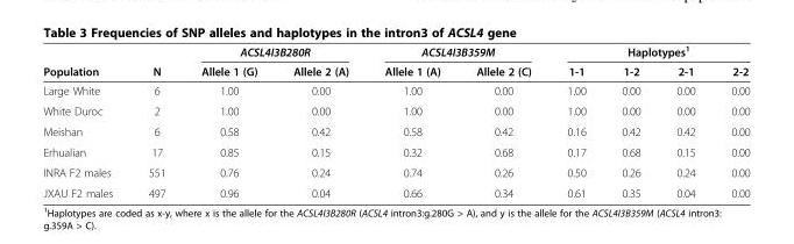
<table><thead><tr><td rowspan="2">Population</td><td rowspan="2">N</td><td colspan="2">ACSL4I3B280R</td><td colspan="2">ACSL4I3B359M</td><td colspan="4">Haplotypes<sup>1</sup></td></tr><tr><td>Allele 1 (G)</td><td>Allele 2 (A)</td><td>Allele 1 (A)</td><td>Allele 2 (C)</td><td>1-1</td><td>1-2</td><td>2-1</td><td>2-2</td></tr></thead><tbody><tr><td>Large White</td><td>6</td><td>1.00</td><td>0.00</td><td>1.00</td><td>0.00</td><td>1.00</td><td>0.00</td><td>0.00</td><td>0.00</td></tr><tr><td>White Duroc</td><td>2</td><td>1.00</td><td>0.00</td><td>1.00</td><td>0.00</td><td>1.00</td><td>0.00</td><td>0.00</td><td>0.00</td></tr><tr><td>Meishan</td><td>6</td><td>0.58</td><td>0.42</td><td>0.58</td><td>0.42</td><td>0.16</td><td>0.42</td><td>0.42</td><td>0.00</td></tr><tr><td>Erhualian</td><td>17</td><td>0.85</td><td>0.15</td><td>0.32</td><td>0.68</td><td>0.17</td><td>0.68</td><td>0.15</td><td>0.00</td></tr><tr><td>INRA F2 males</td><td>551</td><td>0.76</td><td>0.24</td><td>0.74</td><td>0.26</td><td>0.50</td><td>0.26</td><td>0.24</td><td>0.00</td></tr><tr><td>JXAU F2 males</td><td>497</td><td>0.96</td><td>0.04</td><td>0.66</td><td>0.34</td><td>0.61</td><td>0.35</td><td>0.04</td><td>0.00</td></tr></tbody></table>